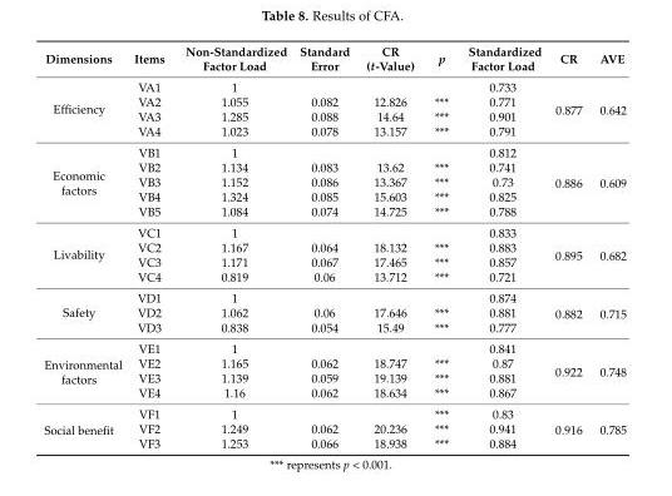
<table><thead><tr><td>Dimensions</td><td>Items</td><td>Non-Standardized Factor Load</td><td>Standard Error</td><td>CR (t-Value)</td><td>p</td><td>Standardized Factor Load</td><td>CR</td><td>AVE</td></tr></thead><tbody><tr><td rowspan="4">Efficiency</td><td>VA1</td><td>1</td><td></td><td></td><td></td><td>0.733</td><td rowspan="4">0.877</td><td rowspan="4">0.642</td></tr><tr><td>VA2</td><td>1.055</td><td>0.082</td><td>12.826</td><td>***</td><td>0.771</td></tr><tr><td>VA3</td><td>1.285</td><td>0.088</td><td>14.64</td><td>***</td><td>0.901</td></tr><tr><td>VA4</td><td>1.023</td><td>0.078</td><td>13.157</td><td>***</td><td>0.791</td></tr><tr><td rowspan="5">Economic factors</td><td>VB1</td><td>1</td><td></td><td></td><td></td><td>0.812</td><td rowspan="5">0.886</td><td rowspan="5">0.609</td></tr><tr><td>VB2</td><td>1.134</td><td>0.083</td><td>13.62</td><td>***</td><td>0.741</td></tr><tr><td>VB3</td><td>1.152</td><td>0.086</td><td>13.367</td><td>***</td><td>0.73</td></tr><tr><td>VB4</td><td>1.324</td><td>0.085</td><td>15.603</td><td>***</td><td>0.825</td></tr><tr><td>VB5</td><td>1.084</td><td>0.074</td><td>14.725</td><td>***</td><td>0.788</td></tr><tr><td rowspan="4">Livability</td><td>VC1</td><td>1</td><td></td><td></td><td></td><td>0.833</td><td rowspan="4">0.895</td><td rowspan="4">0.682</td></tr><tr><td>VC2</td><td>1.167</td><td>0.064</td><td>18.132</td><td>***</td><td>0.883</td></tr><tr><td>VC3</td><td>1.171</td><td>0.067</td><td>17.465</td><td>***</td><td>0.857</td></tr><tr><td>VC4</td><td>0.819</td><td>0.06</td><td>13.712</td><td>***</td><td>0.721</td></tr><tr><td rowspan="3">Safety</td><td>VD1</td><td>1</td><td></td><td></td><td></td><td>0.874</td><td rowspan="3">0.882</td><td rowspan="3">0.715</td></tr><tr><td>VD2</td><td>1.062</td><td>0.06</td><td>17.646</td><td>***</td><td>0.881</td></tr><tr><td>VD3</td><td>0.838</td><td>0.054</td><td>15.49</td><td>***</td><td>0.777</td></tr><tr><td rowspan="4">Environmental factors</td><td>VE1</td><td>1</td><td></td><td></td><td></td><td>0.841</td><td rowspan="4">0.922</td><td rowspan="4">0.748</td></tr><tr><td>VE2</td><td>1.165</td><td>0.062</td><td>18.747</td><td>***</td><td>0.87</td></tr><tr><td>VE3</td><td>1.139</td><td>0.059</td><td>19.139</td><td>***</td><td>0.881</td></tr><tr><td>VE4</td><td>1.16</td><td>0.062</td><td>18.634</td><td>***</td><td>0.867</td></tr><tr><td rowspan="3">Social benefit</td><td>VF1</td><td>1</td><td></td><td></td><td>***</td><td>0.83</td><td rowspan="3">0.916</td><td rowspan="3">0.785</td></tr><tr><td>VF2</td><td>1.249</td><td>0.062</td><td>20.236</td><td>***</td><td>0.941</td></tr><tr><td>VF3</td><td>1.253</td><td>0.066</td><td>18.938</td><td>***</td><td>0.884</td></tr></tbody></table>